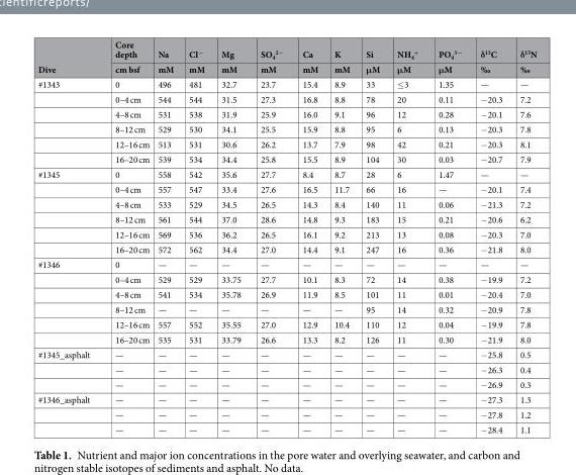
<table><thead><tr><td rowspan="2">Dive</td><td rowspan="2">Core depth cm bsf</td><td rowspan="2">Na mM</td><td rowspan="2">Cl<sup>−</sup> mM</td><td rowspan="2">Mg mM</td><td rowspan="2">SO<sub>4</sub> <sup>2−</sup> mM</td><td rowspan="2">Ca mM</td><td rowspan="2">K mM</td><td rowspan="2">Si μM</td><td rowspan="2">NH<sub>4</sub> <sup>+</sup> μM</td><td rowspan="2">PO<sub>4</sub> <sup>3−</sup> μM</td><td rowspan="2">δ<sup>13</sup>C ‰</td><td rowspan="2">δ<sup>15</sup>N ‰</td></tr><tr></tr></thead><tbody><tr><td rowspan="6">#1343</td><td>0</td><td>496</td><td>481</td><td>32.7</td><td>23.7</td><td>15.4</td><td>8.9</td><td>33</td><td>≤3</td><td>1.35</td><td>—</td><td>—</td></tr><tr><td>0–4 cm</td><td>544</td><td>544</td><td>31.5</td><td>27.3</td><td>16.8</td><td>8.8</td><td>78</td><td>20</td><td>0.11</td><td>−20.3</td><td>7.2</td></tr><tr><td>4–8 cm</td><td>531</td><td>538</td><td>31.9</td><td>25.9</td><td>16.0</td><td>9.1</td><td>96</td><td>12</td><td>0.28</td><td>−20.1</td><td>7.6</td></tr><tr><td>8–12 cm</td><td>529</td><td>530</td><td>34.1</td><td>25.5</td><td>15.9</td><td>8.8</td><td>95</td><td>6</td><td>0.13</td><td>−20.3</td><td>7.8</td></tr><tr><td>12–16 cm</td><td>513</td><td>531</td><td>30.6</td><td>26.2</td><td>13.7</td><td>7.9</td><td>98</td><td>42</td><td>0.21</td><td>−20.3</td><td>8.1</td></tr><tr><td>16–20 cm</td><td>539</td><td>534</td><td>34.4</td><td>25.8</td><td>15.5</td><td>8.9</td><td>104</td><td>30</td><td>0.03</td><td>−20.7</td><td>7.9</td></tr><tr><td rowspan="6">#1345</td><td>0</td><td>558</td><td>542</td><td>35.6</td><td>27.7</td><td>8.4</td><td>8.7</td><td>28</td><td>6</td><td>1.47</td><td>—</td><td>—</td></tr><tr><td>0–4 cm</td><td>557</td><td>547</td><td>33.4</td><td>27.6</td><td>16.5</td><td>11.7</td><td>66</td><td>16</td><td>—</td><td>−20.1</td><td>7.4</td></tr><tr><td>4–8 cm</td><td>533</td><td>529</td><td>34.5</td><td>26.5</td><td>14.3</td><td>8.4</td><td>140</td><td>11</td><td>0.06</td><td>−21.3</td><td>7.2</td></tr><tr><td>8–12 cm</td><td>561</td><td>544</td><td>37.0</td><td>28.6</td><td>14.8</td><td>9.3</td><td>183</td><td>15</td><td>0.21</td><td>−20.6</td><td>6.2</td></tr><tr><td>12–16 cm</td><td>569</td><td>536</td><td>36.2</td><td>26.5</td><td>16.1</td><td>9.2</td><td>213</td><td>13</td><td>0.08</td><td>−20.3</td><td>7.0</td></tr><tr><td>16–20 cm</td><td>572</td><td>562</td><td>34.4</td><td>27.0</td><td>14.4</td><td>9.1</td><td>247</td><td>16</td><td>0.36</td><td>−21.8</td><td>8.0</td></tr><tr><td rowspan="6">#1346</td><td>0</td><td>—</td><td>—</td><td>—</td><td>—</td><td>—</td><td>—</td><td>—</td><td>—</td><td>—</td><td>—</td><td>—</td></tr><tr><td>0–4 cm</td><td>529</td><td>529</td><td>33.75</td><td>27.7</td><td>10.1</td><td>8.3</td><td>72</td><td>14</td><td>0.38</td><td>−19.9</td><td>7.2</td></tr><tr><td>4–8 cm</td><td>541</td><td>534</td><td>35.78</td><td>26.9</td><td>11.9</td><td>8.5</td><td>101</td><td>11</td><td>0.01</td><td>−20.4</td><td>7.0</td></tr><tr><td>8–12 cm</td><td>—</td><td>—</td><td>—</td><td>—</td><td>—</td><td>—</td><td>95</td><td>14</td><td>0.32</td><td>−20.9</td><td>7.8</td></tr><tr><td>12–16 cm</td><td>557</td><td>552</td><td>35.55</td><td>27.0</td><td>12.9</td><td>10.4</td><td>110</td><td>12</td><td>0.04</td><td>−19.9</td><td>7.8</td></tr><tr><td>16–20 cm</td><td>535</td><td>531</td><td>33.79</td><td>26.6</td><td>13.3</td><td>8.2</td><td>126</td><td>11</td><td>0.30</td><td>−21.9</td><td>8.0</td></tr><tr><td rowspan="3">#1345_asphalt</td><td>—</td><td>—</td><td>—</td><td>—</td><td>—</td><td>—</td><td>—</td><td>—</td><td>—</td><td>—</td><td>−25.8</td><td>0.5</td></tr><tr><td>—</td><td>—</td><td>—</td><td>—</td><td>—</td><td>—</td><td>—</td><td>—</td><td>—</td><td>—</td><td>−26.3</td><td>0.4</td></tr><tr><td>—</td><td>—</td><td>—</td><td>—</td><td>—</td><td>—</td><td>—</td><td>—</td><td>—</td><td>—</td><td>−26.9</td><td>0.3</td></tr><tr><td rowspan="3">#1346_asphalt</td><td>—</td><td>—</td><td>—</td><td>—</td><td>—</td><td>—</td><td>—</td><td>—</td><td>—</td><td>—</td><td>−27.3</td><td>1.3</td></tr><tr><td>—</td><td>—</td><td>—</td><td>—</td><td>—</td><td>—</td><td>—</td><td>—</td><td>—</td><td>—</td><td>−27.8</td><td>1.2</td></tr><tr><td>—</td><td>—</td><td>—</td><td>—</td><td>—</td><td>—</td><td>—</td><td>—</td><td>—</td><td>—</td><td>−28.4</td><td>1.1</td></tr></tbody></table>